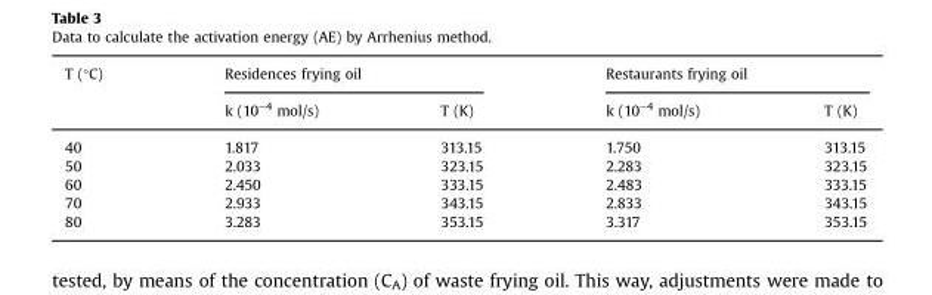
<table><thead><tr><td rowspan="2">T (°C)</td><td colspan="2">Residences frying oil</td><td colspan="2">Restaurants frying oil</td></tr><tr><td>k (10<sup>−4</sup> mol/s)</td><td>T (K)</td><td>k (10<sup>−4</sup> mol/s)</td><td>T (K)</td></tr></thead><tbody><tr><td>40</td><td>1.817</td><td>313.15</td><td>1.750</td><td>313.15</td></tr><tr><td>50</td><td>2.033</td><td>323.15</td><td>2.283</td><td>323.15</td></tr><tr><td>60</td><td>2.450</td><td>333.15</td><td>2.483</td><td>333.15</td></tr><tr><td>70</td><td>2.933</td><td>343.15</td><td>2.833</td><td>343.15</td></tr><tr><td>80</td><td>3.283</td><td>353.15</td><td>3.317</td><td>353.15</td></tr></tbody></table>